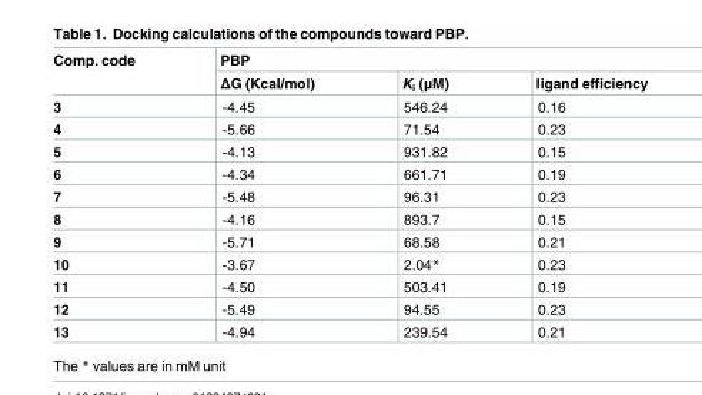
<table><thead><tr><td rowspan="2">Comp. code</td><td colspan="3">PBP</td></tr><tr><td>ΔG (Kcal/mol)</td><td>K<sub>i</sub> (μM)</td><td>ligand efficiency</td></tr></thead><tbody><tr><td>3</td><td>-4.45</td><td>546.24</td><td>0.16</td></tr><tr><td>4</td><td>-5.66</td><td>71.54</td><td>0.23</td></tr><tr><td>5</td><td>-4.13</td><td>931.82</td><td>0.15</td></tr><tr><td>6</td><td>-4.34</td><td>661.71</td><td>0.19</td></tr><tr><td>7</td><td>-5.48</td><td>96.31</td><td>0.23</td></tr><tr><td>8</td><td>-4.16</td><td>893.7</td><td>0.15</td></tr><tr><td>9</td><td>-5.71</td><td>68.58</td><td>0.21</td></tr><tr><td>10</td><td>-3.67</td><td>2.04*</td><td>0.23</td></tr><tr><td>11</td><td>-4.50</td><td>503.41</td><td>0.19</td></tr><tr><td>12</td><td>-5.49</td><td>94.55</td><td>0.23</td></tr><tr><td>13</td><td>-4.94</td><td>239.54</td><td>0.21</td></tr></tbody></table>